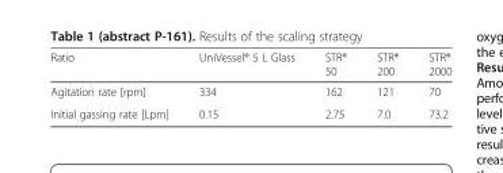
<table><thead><tr><td>Ratio</td><td>UniVessel® 5 L Glass</td><td>STR® 50</td><td>STR® 200</td><td>STR® 2000</td></tr></thead><tbody><tr><td>Agitation rate [rpm]</td><td>334</td><td>162</td><td>121</td><td>70</td></tr><tr><td>Initial gassing rate [Lpm]</td><td>0.15</td><td>2.75</td><td>7.0</td><td>73.2</td></tr></tbody></table>